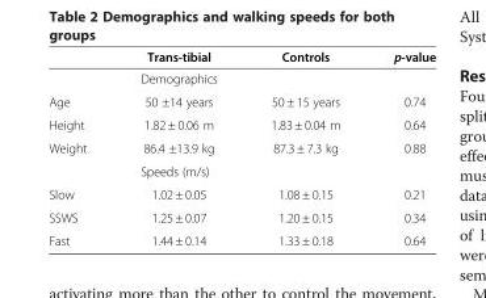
<table><thead><tr><td></td><td>Trans-tibial</td><td>Controls</td><td>p-value</td></tr></thead><tbody><tr><td></td><td>Demographics</td><td></td><td></td></tr><tr><td>Age</td><td>50 ±14 years</td><td>50 ± 15 years</td><td>0.74</td></tr><tr><td>Height</td><td>1.82 ± 0.06 m</td><td>1.83 ± 0.04 m</td><td>0.64</td></tr><tr><td rowspan="2">Weight</td><td>86.4 ±13.9 kg</td><td>87.3 ± 7.3 kg</td><td>0.88</td></tr><tr><td>Speeds (m/s)</td><td></td><td></td></tr><tr><td>Slow</td><td>1.02 ± 0.05</td><td>1.08 ± 0.15</td><td>0.21</td></tr><tr><td>SSWS</td><td>1.25 ± 0.07</td><td>1.20 ± 0.15</td><td>0.34</td></tr><tr><td>Fast</td><td>1.44 ± 0.14</td><td>1.33 ± 0.18</td><td>0.64</td></tr></tbody></table>